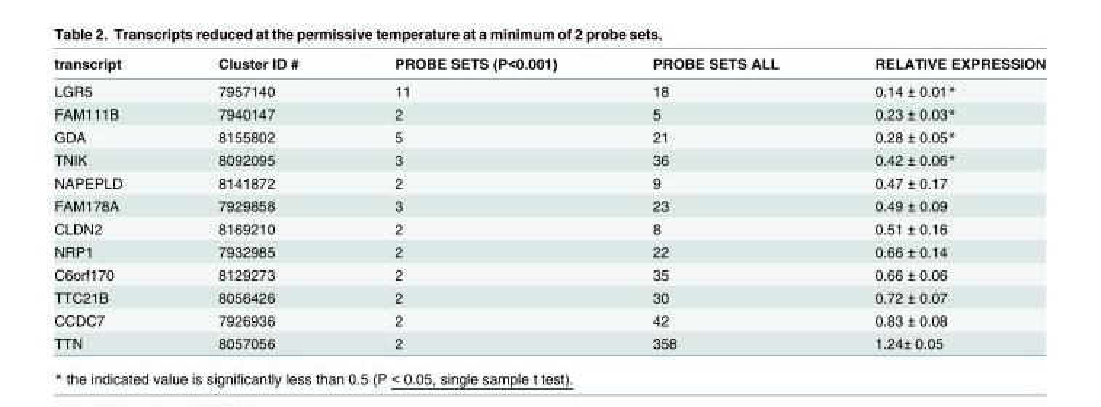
<table><thead><tr><td>transcript</td><td>Cluster ID #</td><td>PROBE SETS (P&lt;0.001)</td><td>PROBE SETS ALL</td><td>RELATIVE EXPRESSION</td></tr></thead><tbody><tr><td>LGR5</td><td>7957140</td><td>11</td><td>18</td><td>0.14 ± 0.01*</td></tr><tr><td>FAM111B</td><td>7940147</td><td>2</td><td>5</td><td>0.23 ± 0.03*</td></tr><tr><td>GDA</td><td>8155802</td><td>5</td><td>21</td><td>0.28 ± 0.05*</td></tr><tr><td>TNIK</td><td>8092095</td><td>3</td><td>36</td><td>0.42 ± 0.06*</td></tr><tr><td>NAPEPLD</td><td>8141872</td><td>2</td><td>9</td><td>0.47 ± 0.17</td></tr><tr><td>FAM178A</td><td>7929858</td><td>3</td><td>23</td><td>0.49 ± 0.09</td></tr><tr><td>CLDN2</td><td>8169210</td><td>2</td><td>8</td><td>0.51 ± 0.16</td></tr><tr><td>NRP1</td><td>7932985</td><td>2</td><td>22</td><td>0.66 ± 0.14</td></tr><tr><td>C6orf170</td><td>8129273</td><td>2</td><td>35</td><td>0.66 ± 0.06</td></tr><tr><td>TTC21B</td><td>8056426</td><td>2</td><td>30</td><td>0.72 ± 0.07</td></tr><tr><td>CCDC7</td><td>7926936</td><td>2</td><td>42</td><td>0.83 ± 0.08</td></tr><tr><td>TTN</td><td>8057056</td><td>2</td><td>358</td><td>1.24± 0.05</td></tr></tbody></table>